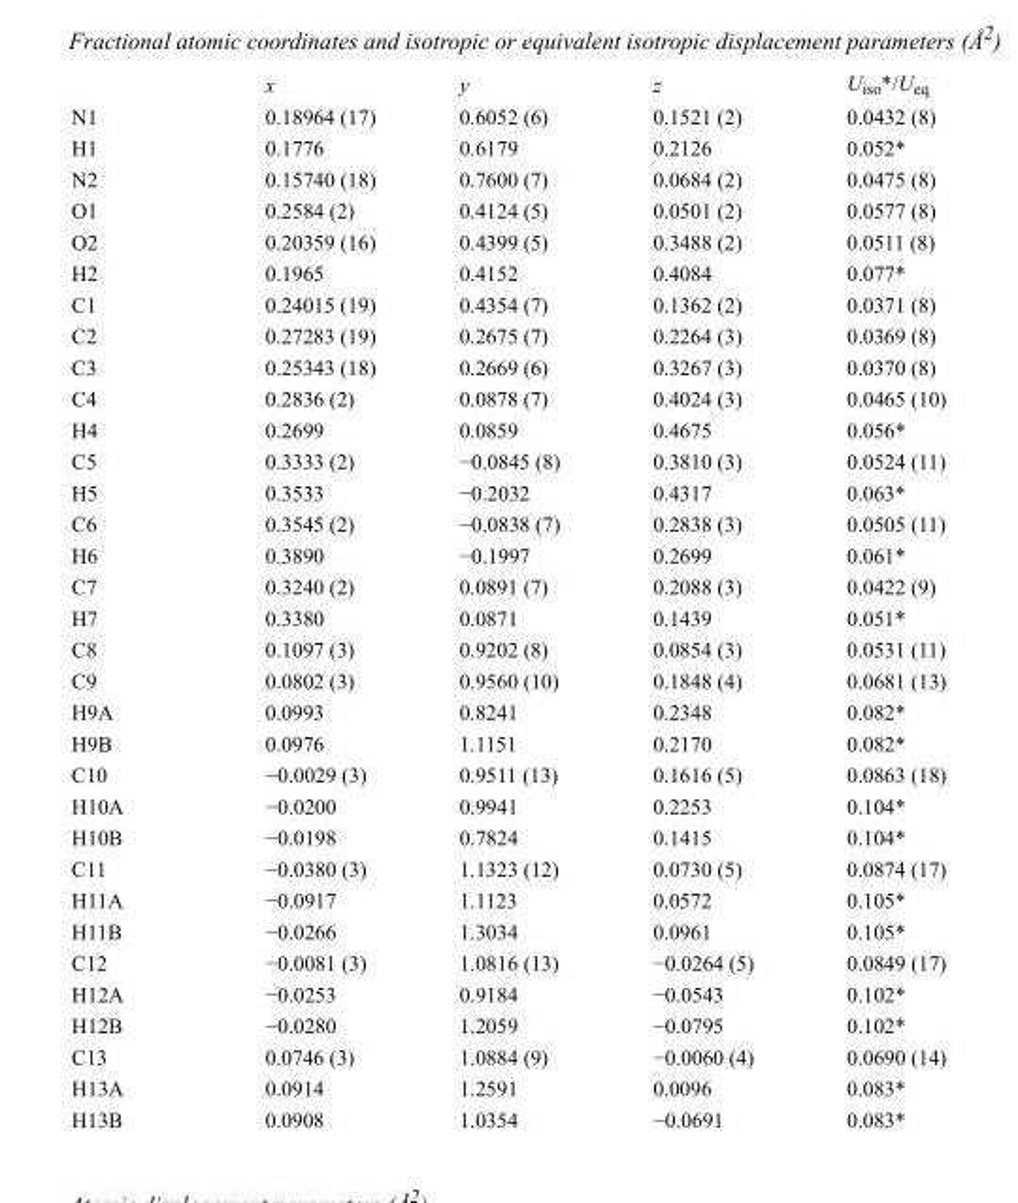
<table><thead><tr><td></td><td>x</td><td>y</td><td>z</td><td>U<sub>iso</sub>*/U<sub>eq</sub></td></tr></thead><tbody><tr><td>N1</td><td>0.18964 (17)</td><td>0.6052 (6)</td><td>0.1521 (2)</td><td>0.0432 (8)</td></tr><tr><td>H1</td><td>0.1776</td><td>0.6179</td><td>0.2126</td><td>0.052*</td></tr><tr><td>N2</td><td>0.15740 (18)</td><td>0.7600 (7)</td><td>0.0684 (2)</td><td>0.0475 (8)</td></tr><tr><td>O1</td><td>0.2584 (2)</td><td>0.4124 (5)</td><td>0.0501 (2)</td><td>0.0577 (8)</td></tr><tr><td>O2</td><td>0.20359 (16)</td><td>0.4399 (5)</td><td>0.3488 (2)</td><td>0.0511 (8)</td></tr><tr><td>H2</td><td>0.1965</td><td>0.4152</td><td>0.4084</td><td>0.077*</td></tr><tr><td>C1</td><td>0.24015 (19)</td><td>0.4354 (7)</td><td>0.1362 (2)</td><td>0.0371 (8)</td></tr><tr><td>C2</td><td>0.27283 (19)</td><td>0.2675 (7)</td><td>0.2264 (3)</td><td>0.0369 (8)</td></tr><tr><td>C3</td><td>0.25343 (18)</td><td>0.2669 (6)</td><td>0.3267 (3)</td><td>0.0370 (8)</td></tr><tr><td>C4</td><td>0.2836 (2)</td><td>0.0878 (7)</td><td>0.4024 (3)</td><td>0.0465 (10)</td></tr><tr><td>H4</td><td>0.2699</td><td>0.0859</td><td>0.4675</td><td>0.056*</td></tr><tr><td>C5</td><td>0.3333 (2)</td><td>−0.0845 (8)</td><td>0.3810 (3)</td><td>0.0524 (11)</td></tr><tr><td>H5</td><td>0.3533</td><td>−0.2032</td><td>0.4317</td><td>0.063*</td></tr><tr><td>C6</td><td>0.3545 (2)</td><td>−0.0838 (7)</td><td>0.2838 (3)</td><td>0.0505 (11)</td></tr><tr><td>H6</td><td>0.3890</td><td>−0.1997</td><td>0.2699</td><td>0.061*</td></tr><tr><td>C7</td><td>0.3240 (2)</td><td>0.0891 (7)</td><td>0.2088 (3)</td><td>0.0422 (9)</td></tr><tr><td>H7</td><td>0.3380</td><td>0.0871</td><td>0.1439</td><td>0.051*</td></tr><tr><td>C8</td><td>0.1097 (3)</td><td>0.9202 (8)</td><td>0.0854 (3)</td><td>0.0531 (11)</td></tr><tr><td>C9</td><td>0.0802 (3)</td><td>0.9560 (10)</td><td>0.1848 (4)</td><td>0.0681 (13)</td></tr><tr><td>H9A</td><td>0.0993</td><td>0.8241</td><td>0.2348</td><td>0.082*</td></tr><tr><td>H9B</td><td>0.0976</td><td>1.1151</td><td>0.2170</td><td>0.082*</td></tr><tr><td>C10</td><td>−0.0029 (3)</td><td>0.9511 (13)</td><td>0.1616 (5)</td><td>0.0863 (18)</td></tr><tr><td>H10A</td><td>−0.0200</td><td>0.9941</td><td>0.2253</td><td>0.104*</td></tr><tr><td>H10B</td><td>−0.0198</td><td>0.7824</td><td>0.1415</td><td>0.104*</td></tr><tr><td>C11</td><td>−0.0380 (3)</td><td>1.1323 (12)</td><td>0.0730 (5)</td><td>0.0874 (17)</td></tr><tr><td>H11A</td><td>−0.0917</td><td>1.1123</td><td>0.0572</td><td>0.105*</td></tr><tr><td>H11B</td><td>−0.0266</td><td>1.3034</td><td>0.0961</td><td>0.105*</td></tr><tr><td>C12</td><td>−0.0081 (3)</td><td>1.0816 (13)</td><td>−0.0264 (5)</td><td>0.0849 (17)</td></tr><tr><td>H12A</td><td>−0.0253</td><td>0.9184</td><td>−0.0543</td><td>0.102*</td></tr><tr><td>H12B</td><td>−0.0280</td><td>1.2059</td><td>−0.0795</td><td>0.102*</td></tr><tr><td>C13</td><td>0.0746 (3)</td><td>1.0884 (9)</td><td>−0.0060 (4)</td><td>0.0690 (14)</td></tr><tr><td>H13A</td><td>0.0914</td><td>1.2591</td><td>0.0096</td><td>0.083*</td></tr><tr><td>H13B</td><td>0.0908</td><td>1.0354</td><td>−0.0691</td><td>0.083*</td></tr></tbody></table>